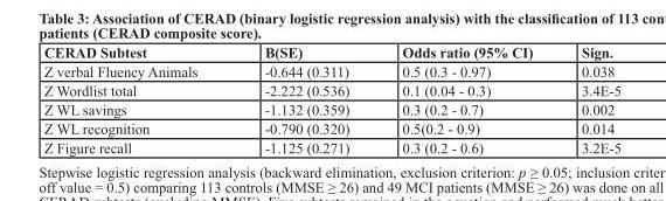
<table><thead><tr><td>CERAD Subtest</td><td>b(se)</td><td>Odds ratio (95% CI)</td><td>Sign.</td></tr></thead><tbody><tr><td>Z verbal Fluency Animals</td><td>-0.644 (0.311)</td><td>0.5 (0.3 - 0.97)</td><td>0.038</td></tr><tr><td>Z Wordlist total</td><td>-2.222 (0.536)</td><td>0.1 (0.04 - 0.3)</td><td>3.4E-5</td></tr><tr><td>Z WL savings</td><td>-1.132 (0.359)</td><td>0.3 (0.2 - 0.7)</td><td>0.002</td></tr><tr><td>Z WL recognition</td><td>-0.790 (0.320)</td><td>0.5(0.2 - 0.9)</td><td>0.014</td></tr><tr><td>Z Figure recall</td><td>-1.125 (0.271)</td><td>0.3 (0.2 - 0.6)</td><td>3.2E-5</td></tr></tbody></table>